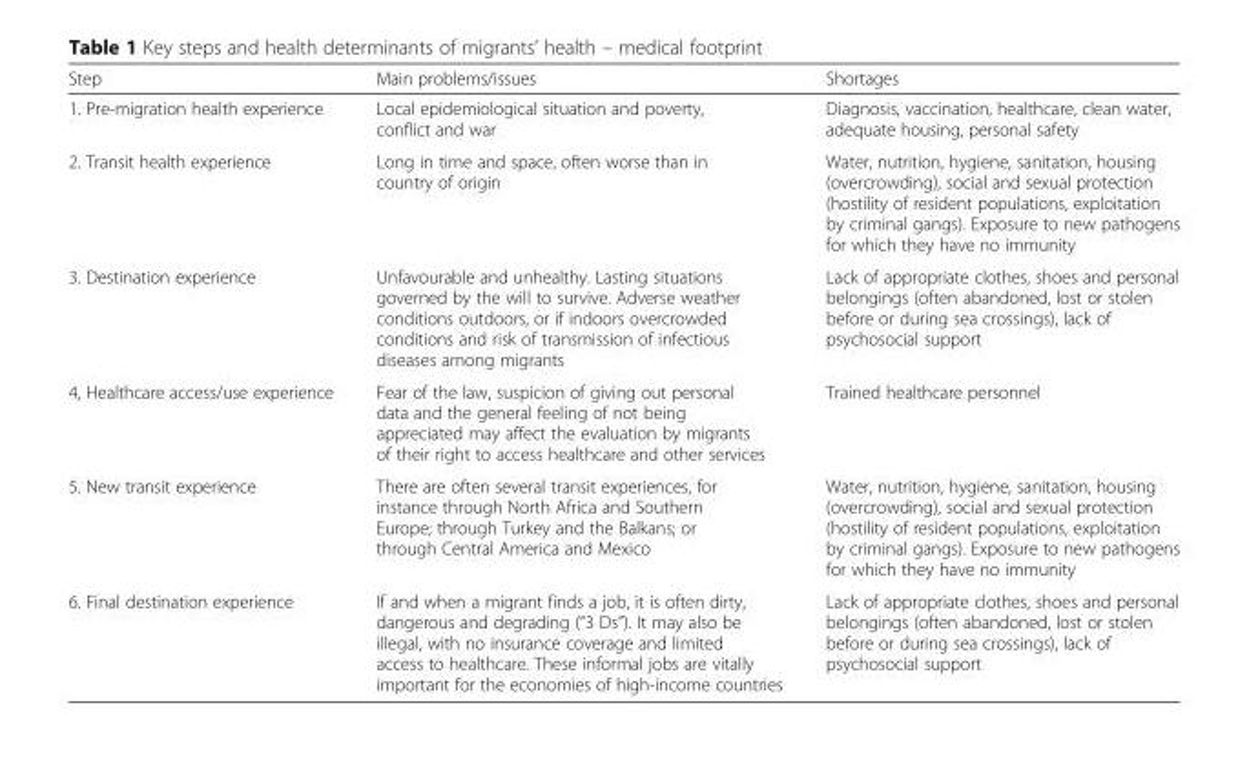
<table><thead><tr><td>Step</td><td>Main problems/issues</td><td>Shortages</td></tr></thead><tbody><tr><td>1. Pre-migration health experience</td><td>Local epidemiological situation and poverty, conflict and war</td><td>Diagnosis, vaccination, healthcare, clean water, adequate housing, personal safety</td></tr><tr><td>2. Transit health experience</td><td>Long in time and space, often worse than in country of origin</td><td>Water, nutrition, hygiene, sanitation, housing (overcrowding), social and sexual protection (hostility of resident populations, exploitation by criminal gangs). Exposure to new pathogens for which they have no immunity</td></tr><tr><td>3. Destination experience</td><td>Unfavourable and unhealthy. Lasting situations governed by the will to survive. Adverse weather conditions outdoors, or if indoors overcrowded conditions and risk of transmission of infectious diseases among migrants</td><td>Lack of appropriate clothes, shoes and personal belongings (often abandoned, lost or stolen before or during sea crossings), lack of psychosocial support</td></tr><tr><td>4, Healthcare access/use experience</td><td>Fear of the law, suspicion of giving out personal data and the general feeling of not being appreciated may affect the evaluation by migrants of their right to access healthcare and other services</td><td>Trained healthcare personnel</td></tr><tr><td>5. New transit experience</td><td>There are often several transit experiences, for instance through North Africa and Southern Europe; through Turkey and the Balkans; or through Central America and Mexico</td><td>Water, nutrition, hygiene, sanitation, housing (overcrowding), social and sexual protection (hostility of resident populations, exploitation by criminal gangs). Exposure to new pathogens for which they have no immunity</td></tr><tr><td>6. Final destination experience</td><td>If and when a migrant finds a job, it is often dirty, dangerous and degrading (“3 Ds”). It may also be illegal, with no insurance coverage and limited access to healthcare. These informal jobs are vitally important for the economies of high-income countries</td><td>Lack of appropriate clothes, shoes and personal belongings (often abandoned, lost or stolen before or during sea crossings), lack of psychosocial support</td></tr></tbody></table>